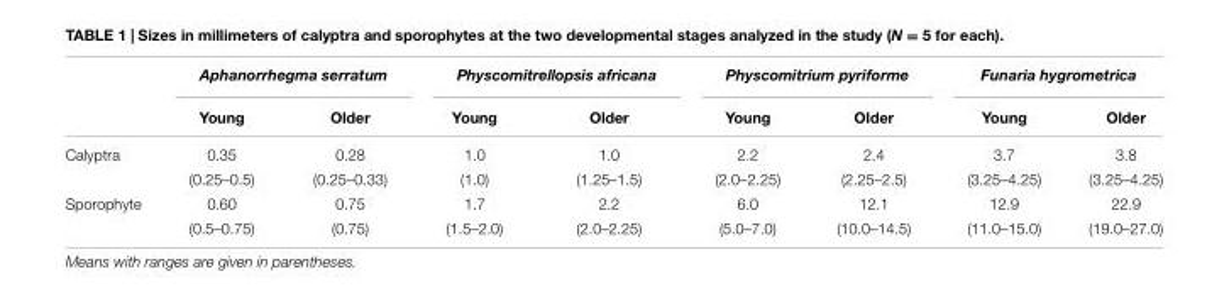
<table><thead><tr><td rowspan="2"></td><td colspan="2">Aphanorrhegma serratum</td><td colspan="2">Physcomitrellopsis africana</td><td colspan="2">Physcomitrium pyriforme</td><td colspan="2">Funaria hygrometrica</td></tr><tr><td>Young</td><td>Older</td><td>Young</td><td>Older</td><td>Young</td><td>Older</td><td>Young</td><td>Older</td></tr></thead><tbody><tr><td rowspan="2">Calyptra</td><td>0.35</td><td>0.28</td><td>1.0</td><td>1.0</td><td>2.2</td><td>2.4</td><td>3.7</td><td>3.8</td></tr><tr><td>(0.25–0.5)</td><td>(0.25–0.33)</td><td>(1.0)</td><td>(1.25–1.5)</td><td>(2.0–2.25)</td><td>(2.25–2.5)</td><td>(3.25–4.25)</td><td>(3.25–4.25)</td></tr><tr><td rowspan="2">Sporophyte</td><td>0.60</td><td>0.75</td><td>1.7</td><td>2.2</td><td>6.0</td><td>12.1</td><td>12.9</td><td>22.9</td></tr><tr><td>(0.5–0.75)</td><td>(0.75)</td><td>(1.5–2.0)</td><td>(2.0–2.25)</td><td>(5.0–7.0)</td><td>(10.0–14.5)</td><td>(11.0–15.0)</td><td>(19.0–27.0)</td></tr></tbody></table>